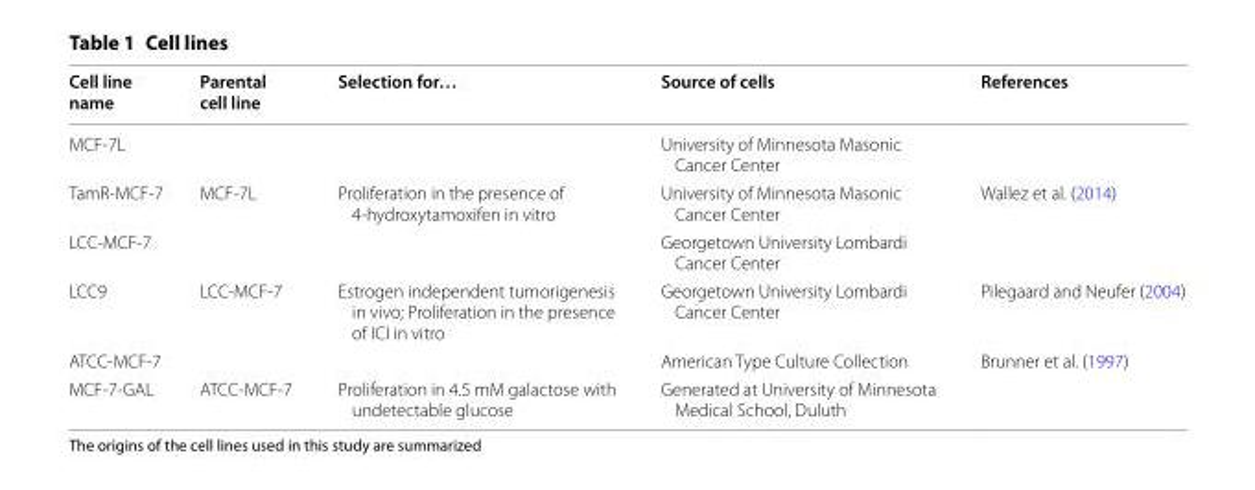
<table><thead><tr><td>Cell line name</td><td>Parental cell line</td><td>Selection for…</td><td>Source of cells</td><td>References</td></tr></thead><tbody><tr><td>MCF-7L</td><td></td><td></td><td>University of Minnesota Masonic Cancer Center</td><td></td></tr><tr><td>TamR-MCF-7</td><td>MCF-7L</td><td>Proliferation in the presence of 4-hydroxytamoxifen in vitro</td><td>University of Minnesota Masonic Cancer Center</td><td>Wallez et al. (2014)</td></tr><tr><td>LCC-MCF-7</td><td></td><td></td><td>Georgetown University Lombardi Cancer Center</td><td></td></tr><tr><td>LCC9</td><td>LCC-MCF-7</td><td>Estrogen independent tumorigenesis in vivo; Proliferation in the presence of ICI in vitro</td><td>Georgetown University Lombardi Cancer Center</td><td>Pilegaard and Neufer (2004)</td></tr><tr><td>ATCC-MCF-7</td><td></td><td></td><td>American Type Culture Collection</td><td>Brunner et al. (1997)</td></tr><tr><td>MCF-7-GAL</td><td>ATCC-MCF-7</td><td>Proliferation in 4.5 mM galactose with undetectable glucose</td><td>Generated at University of Minnesota Medical School, Duluth</td><td></td></tr></tbody></table>